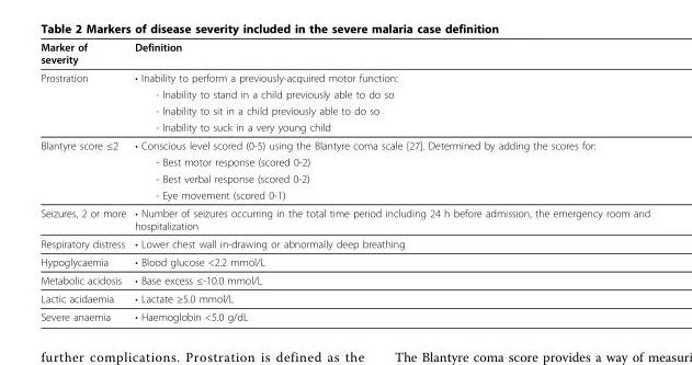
<table><thead><tr><td>Marker of severity</td><td>Definition</td></tr></thead><tbody><tr><td rowspan="4">Prostration</td><td>• Inability to perform a previously-acquired motor function:</td></tr><tr><td>- Inability to stand in a child previously able to do so</td></tr><tr><td>- Inability to sit in a child previously able to do so</td></tr><tr><td>- Inability to suck in a very young child</td></tr><tr><td rowspan="4">Blantyre score ≤2</td><td>• Conscious level scored (0-5) using the Blantyre coma scale [27]. Determined by adding the scores for:</td></tr><tr><td>- Best motor response (scored 0-2)</td></tr><tr><td>- Best verbal response (scored 0-2)</td></tr><tr><td>- Eye movement (scored 0-1)</td></tr><tr><td>Seizures, 2 or more</td><td>• Number of seizures occurring in the total time period including 24 h before admission, the emergency room and hospitalization</td></tr><tr><td>Respiratory distress</td><td>• Lower chest wall in-drawing or abnormally deep breathing</td></tr><tr><td>Hypoglycaemia</td><td>• Blood glucose &lt;2.2 mmol/L</td></tr><tr><td>Metabolic acidosis</td><td>• Base excess ≤-10.0 mmol/L</td></tr><tr><td>Lactic acidaemia</td><td>• Lactate ≥5.0 mmol/L</td></tr><tr><td>Severe anaemia</td><td>• Haemoglobin &lt;5.0 g/dL</td></tr></tbody></table>